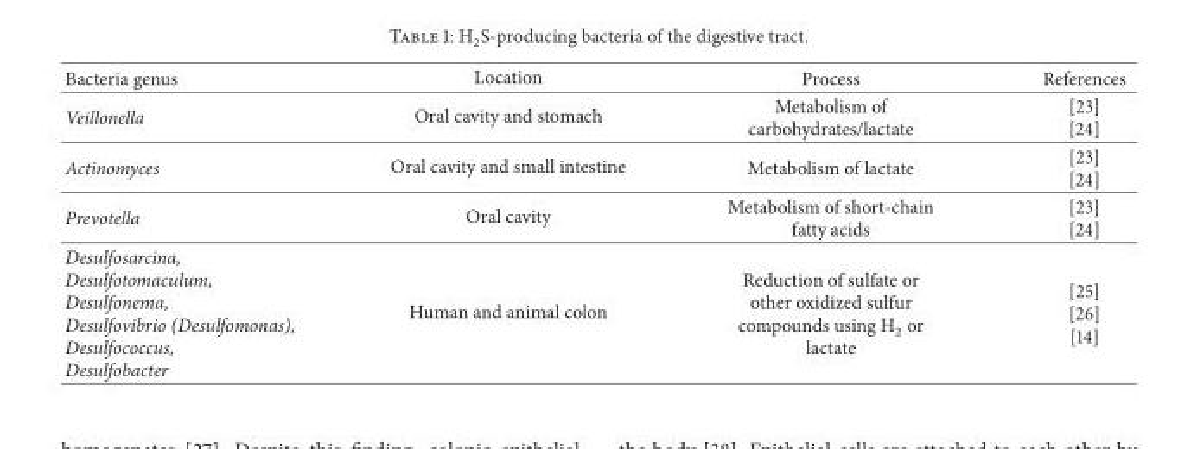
<table><thead><tr><td>Bacteria genus</td><td>Location</td><td>Process</td><td>References</td></tr></thead><tbody><tr><td>Veillonella</td><td>Oral cavity and stomach</td><td>Metabolism of carbohydrates/lactate</td><td>[23] [24]</td></tr><tr><td>Actinomyces</td><td>Oral cavity and small intestine</td><td>Metabolism of lactate</td><td>[23] [24]</td></tr><tr><td>Prevotella</td><td>Oral cavity</td><td>Metabolism of short-chain fatty acids</td><td>[23] [24]</td></tr><tr><td>Desulfosarcina, Desulfotomaculum, Desulfonema, Desulfovibrio (Desulfomonas), Desulfococcus, Desulfobacter</td><td>Human and animal colon</td><td>Reduction of sulfate or other oxidized sulfur compounds using H<sub>2</sub> or lactate</td><td>[25] [26] [14]</td></tr></tbody></table>